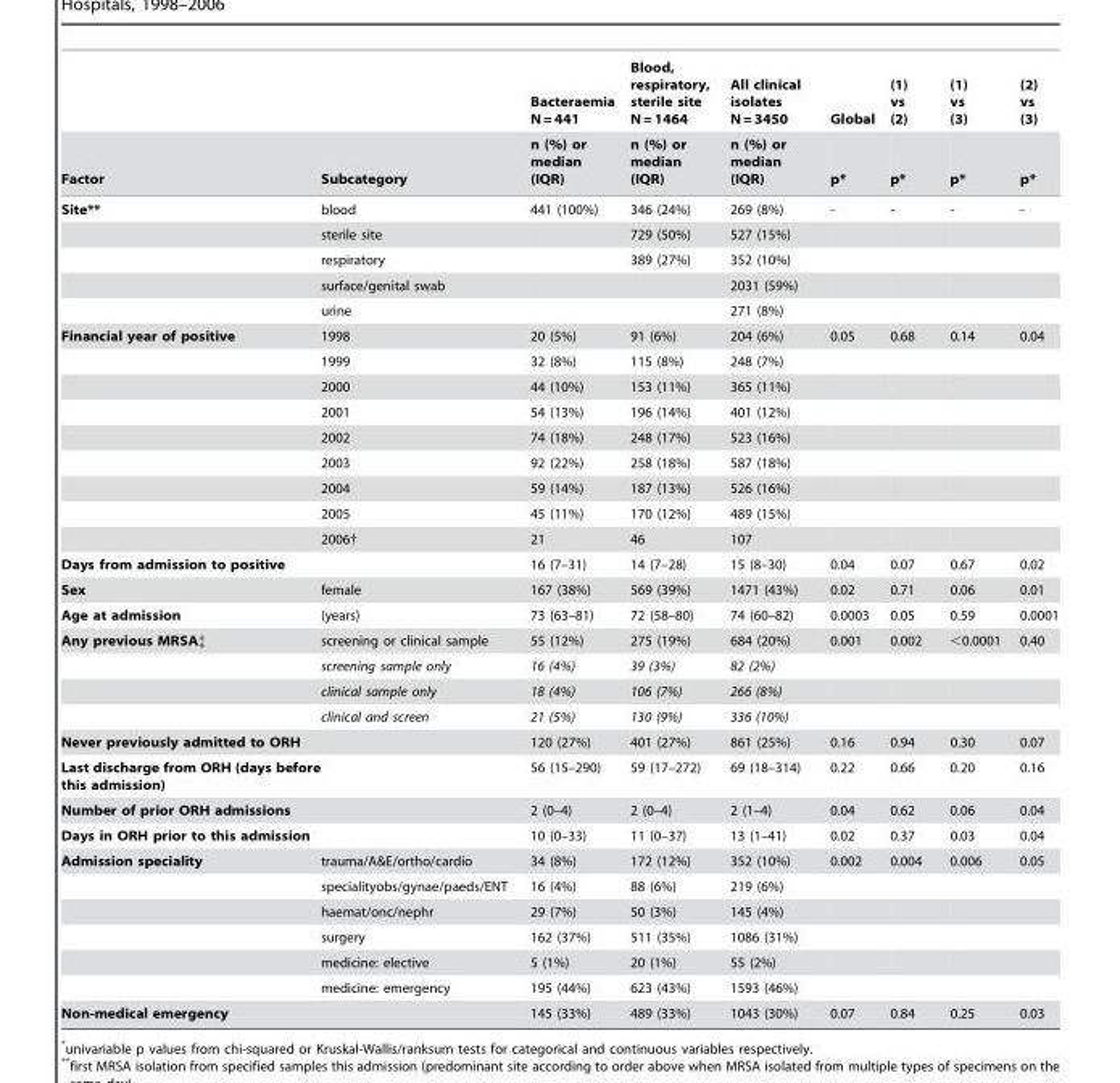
<table><thead><tr><td rowspan="2">Factor</td><td rowspan="2">Subcategory</td><td rowspan="2">Bacteraemia N = 441 n (%) or median (IQR)</td><td rowspan="2">Blood, respiratory, sterile site N = 1464 n (%) or median (IQR)</td><td rowspan="2">All clinical isolates N = 3450 n (%) or median (IQR)</td><td rowspan="2">Global p*</td><td rowspan="2">(1) vs (2) p*</td><td rowspan="2">(1) vs (3) p*</td><td rowspan="2">(2) vs (3) p*</td></tr><tr></tr></thead><tbody><tr><td rowspan="5">Site**</td><td>blood</td><td>441 (100%)</td><td>346 (24%)</td><td>269 (8%)</td><td>-</td><td>-</td><td>-</td><td>-</td></tr><tr><td>sterile site</td><td></td><td>729 (50%)</td><td>527 (15%)</td><td></td><td></td><td></td><td></td></tr><tr><td>respiratory</td><td></td><td>389 (27%)</td><td>352 (10%)</td><td></td><td></td><td></td><td></td></tr><tr><td>surface/genital swab</td><td></td><td></td><td>2031 (59%)</td><td></td><td></td><td></td><td></td></tr><tr><td>urine</td><td></td><td></td><td>271 (8%)</td><td></td><td></td><td></td><td></td></tr><tr><td rowspan="9">Financial year of positive</td><td>1998</td><td>20 (5%)</td><td>91 (6%)</td><td>204 (6%)</td><td>0.05</td><td>0.68</td><td>0.14</td><td>0.04</td></tr><tr><td>1999</td><td>32 (8%)</td><td>115 (8%)</td><td>248 (7%)</td><td></td><td></td><td></td><td></td></tr><tr><td>2000</td><td>44 (10%)</td><td>153 (11%)</td><td>365 (11%)</td><td></td><td></td><td></td><td></td></tr><tr><td>2001</td><td>54 (13%)</td><td>196 (14%)</td><td>401 (12%)</td><td></td><td></td><td></td><td></td></tr><tr><td>2002</td><td>74 (18%)</td><td>248 (17%)</td><td>523 (16%)</td><td></td><td></td><td></td><td></td></tr><tr><td>2003</td><td>92 (22%)</td><td>258 (18%)</td><td>587 (18%)</td><td></td><td></td><td></td><td></td></tr><tr><td>2004</td><td>59 (14%)</td><td>187 (13%)</td><td>526 (16%)</td><td></td><td></td><td></td><td></td></tr><tr><td>2005</td><td>45 (11%)</td><td>170 (12%)</td><td>489 (15%)</td><td></td><td></td><td></td><td></td></tr><tr><td>2006†</td><td>21</td><td>46</td><td>107</td><td></td><td></td><td></td><td></td></tr><tr><td>Days from admission to positive</td><td></td><td>16 (7–31)</td><td>14 (7–28)</td><td>15 (8–30)</td><td>0.04</td><td>0.07</td><td>0.67</td><td>0.02</td></tr><tr><td>Sex</td><td>female</td><td>167 (38%)</td><td>569 (39%)</td><td>1471 (43%)</td><td>0.02</td><td>0.71</td><td>0.06</td><td>0.01</td></tr><tr><td>Age at admission</td><td>(years)</td><td>73 (63–81)</td><td>72 (58–80)</td><td>74 (60–82)</td><td>0.0003</td><td>0.05</td><td>0.59</td><td>0.0001</td></tr><tr><td rowspan="4">Any previous MRSA‡</td><td>screening or clinical sample</td><td>55 (12%)</td><td>275 (19%)</td><td>684 (20%)</td><td>0.001</td><td>0.002</td><td>&lt;0.0001</td><td>0.40</td></tr><tr><td>screening sample only</td><td>16 (4%)</td><td>39 (3%)</td><td>82 (2%)</td><td></td><td></td><td></td><td></td></tr><tr><td>clinical sample only</td><td>18 (4%)</td><td>106 (7%)</td><td>266 (8%)</td><td></td><td></td><td></td><td></td></tr><tr><td>clinical and screen</td><td>21 (5%)</td><td>130 (9%)</td><td>336 (10%)</td><td></td><td></td><td></td><td></td></tr><tr><td>Never previously admitted to ORH</td><td></td><td>120 (27%)</td><td>401 (27%)</td><td>861 (25%)</td><td>0.16</td><td>0.94</td><td>0.30</td><td>0.07</td></tr><tr><td>Last discharge from ORH (days before this admission)</td><td></td><td>56 (15–290)</td><td>59 (17–272)</td><td>69 (18–314)</td><td>0.22</td><td>0.66</td><td>0.20</td><td>0.16</td></tr><tr><td>Number of prior ORH admissions</td><td></td><td>2 (0–4)</td><td>2 (0–4)</td><td>2 (1–4)</td><td>0.04</td><td>0.62</td><td>0.06</td><td>0.04</td></tr><tr><td>Days in ORH prior to this admission</td><td></td><td>10 (0–33)</td><td>11 (0–37)</td><td>13 (1–41)</td><td>0.02</td><td>0.37</td><td>0.03</td><td>0.04</td></tr><tr><td rowspan="6">Admission speciality</td><td>trauma/A&amp;E/ortho/cardio</td><td>34 (8%)</td><td>172 (12%)</td><td>352 (10%)</td><td>0.002</td><td>0.004</td><td>0.006</td><td>0.05</td></tr><tr><td>specialityobs/gynae/paeds/ENT</td><td>16 (4%)</td><td>88 (6%)</td><td>219 (6%)</td><td></td><td></td><td></td><td></td></tr><tr><td>haemat/onc/nephr</td><td>29 (7%)</td><td>50 (3%)</td><td>145 (4%)</td><td></td><td></td><td></td><td></td></tr><tr><td>surgery</td><td>162 (37%)</td><td>511 (35%)</td><td>1086 (31%)</td><td></td><td></td><td></td><td></td></tr><tr><td>medicine: elective</td><td>5 (1%)</td><td>20 (1%)</td><td>55 (2%)</td><td></td><td></td><td></td><td></td></tr><tr><td>medicine: emergency</td><td>195 (44%)</td><td>623 (43%)</td><td>1593 (46%)</td><td></td><td></td><td></td><td></td></tr><tr><td>Non-medical emergency</td><td></td><td>145 (33%)</td><td>489 (33%)</td><td>1043 (30%)</td><td>0.07</td><td>0.84</td><td>0.25</td><td>0.03</td></tr></tbody></table>